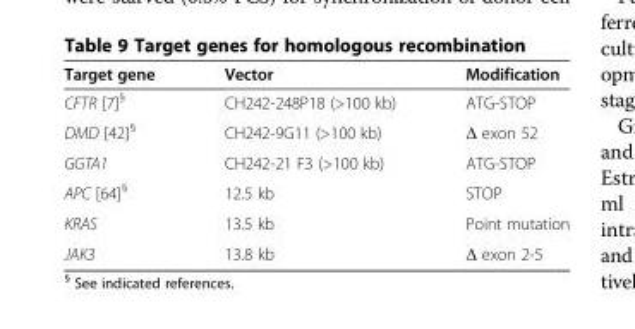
<table><thead><tr><td>Target gene</td><td>Vector</td><td>Modification</td></tr></thead><tbody><tr><td>CFTR [7]<sup>§</sup></td><td>CH242-248P18 (&gt;100 kb)</td><td>ATG-STOP</td></tr><tr><td>DMD [42]<sup>§</sup></td><td>CH242-9G11 (&gt;100 kb)</td><td>Δ exon 52</td></tr><tr><td>GGTA1</td><td>CH242-21 F3 (&gt;100 kb)</td><td>ATG-STOP</td></tr><tr><td>APC [64]<sup>§</sup></td><td>12.5 kb</td><td>STOP</td></tr><tr><td>KRAS</td><td>13.5 kb</td><td>Point mutation</td></tr><tr><td>JAK3</td><td>13.8 kb</td><td>Δ exon 2-5</td></tr></tbody></table>